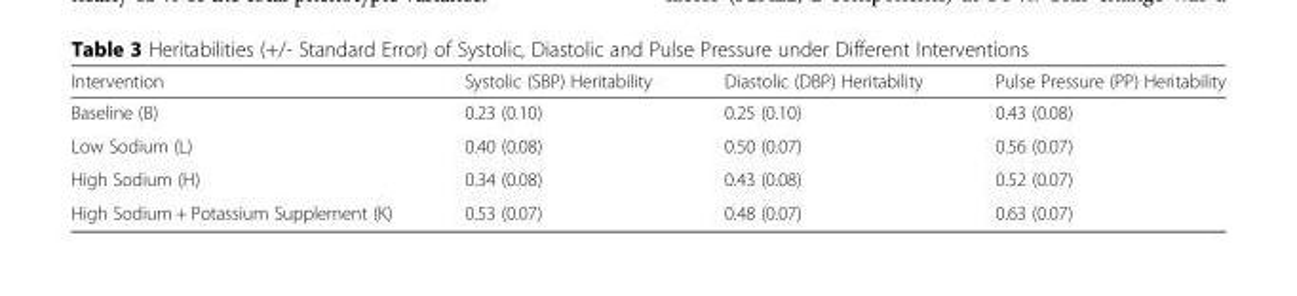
<table><thead><tr><td>Intervention</td><td>Systolic (SBP) Heritability</td><td>Diastolic (DBP) Heritability</td><td>Pulse Pressure (PP) Heritability</td></tr></thead><tbody><tr><td>Baseline (B)</td><td>0.23 (0.10)</td><td>0.25 (0.10)</td><td>0.43 (0.08)</td></tr><tr><td>Low Sodium (L)</td><td>0.40 (0.08)</td><td>0.50 (0.07)</td><td>0.56 (0.07)</td></tr><tr><td>High Sodium (H)</td><td>0.34 (0.08)</td><td>0.43 (0.08)</td><td>0.52 (0.07)</td></tr><tr><td>High Sodium + Potassium Supplement (K)</td><td>0.53 (0.07)</td><td>0.48 (0.07)</td><td>0.63 (0.07)</td></tr></tbody></table>